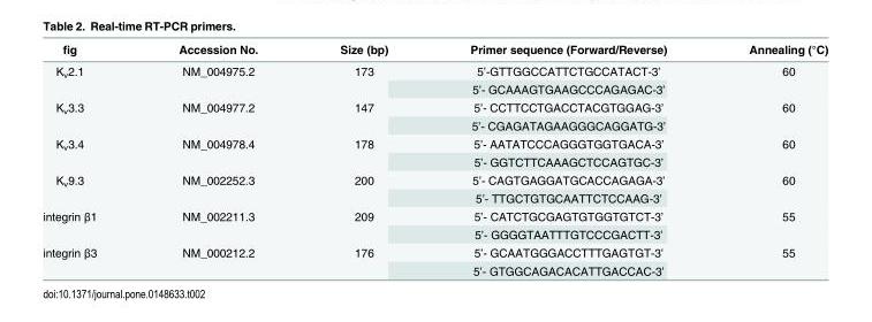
<table><thead><tr><td>fig</td><td>Accession No.</td><td>Size (bp)</td><td>Primer sequence (Forward/Reverse)</td><td>Annealing (°C)</td></tr></thead><tbody><tr><td rowspan="2">K<sub>v</sub>2.1</td><td rowspan="2">NM_004975.2</td><td rowspan="2">173</td><td>5’-GTTGGCCATTCTGCCATACT-3’</td><td rowspan="2">60</td></tr><tr><td>5’- GCAAAGTGAAGCCCAGAGAC-3’</td></tr><tr><td rowspan="2">K<sub>v</sub>3.3</td><td rowspan="2">NM_004977.2</td><td rowspan="2">147</td><td>5’- CCTTCCTGACCTACGTGGAG-3’</td><td rowspan="2">60</td></tr><tr><td>5’- CGAGATAGAAGGGCAGGATG-3’</td></tr><tr><td rowspan="2">K<sub>v</sub>3.4</td><td rowspan="2">NM_004978.4</td><td rowspan="2">178</td><td>5’- AATATCCCAGGGTGGTGACA-3’</td><td rowspan="2">60</td></tr><tr><td>5’- GGTCTTCAAAGCTCCAGTGC-3’</td></tr><tr><td rowspan="2">K<sub>v</sub>9.3</td><td rowspan="2">NM_002252.3</td><td rowspan="2">200</td><td>5’- CAGTGAGGATGCACCAGAGA-3’</td><td rowspan="2">60</td></tr><tr><td>5’- TTGCTGTGCAATTCTCCAAG-3’</td></tr><tr><td rowspan="2">integrin β1</td><td rowspan="2">NM_002211.3</td><td rowspan="2">209</td><td>5’- CATCTGCGAGTGTGGTGTCT-3’</td><td rowspan="2">55</td></tr><tr><td>5’- GGGGTAATTTGTCCCGACTT-3’</td></tr><tr><td rowspan="2">integrin β3</td><td rowspan="2">NM_000212.2</td><td rowspan="2">176</td><td>5’- GCAATGGGACCTTTGAGTGT-3’</td><td rowspan="2">55</td></tr><tr><td>5’- GTGGCAGACACATTGACCAC-3’</td></tr></tbody></table>